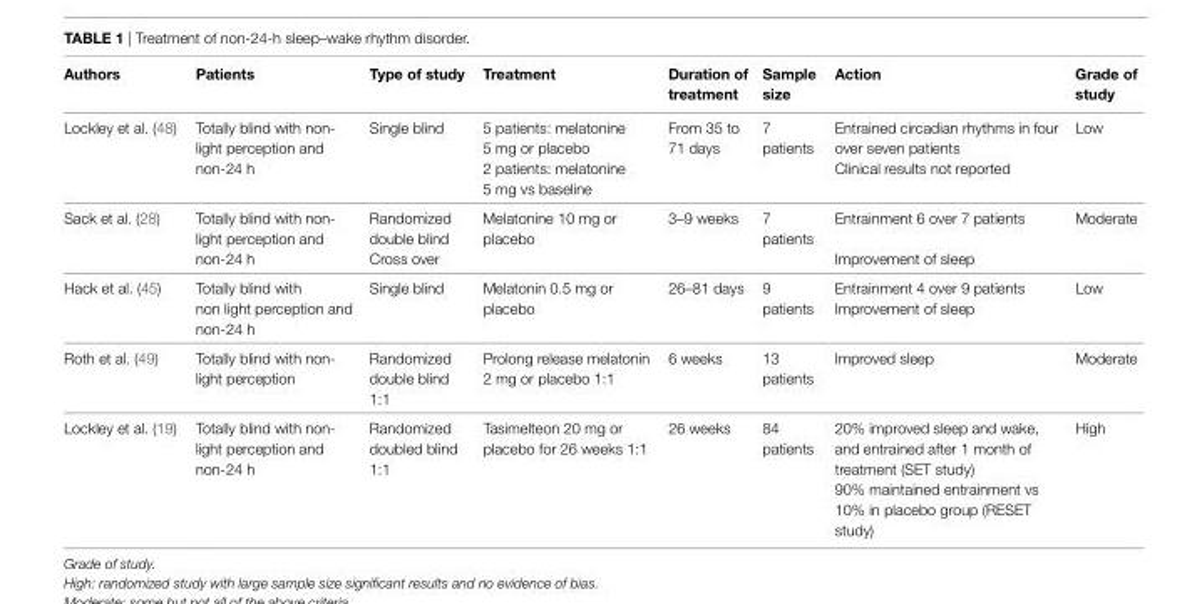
<table><thead><tr><td>Authors</td><td>Patients</td><td>Type of study</td><td>Treatment</td><td>Duration of treatment</td><td>Sample size</td><td>Action</td><td>Grade of study</td></tr></thead><tbody><tr><td rowspan="2">Lockley et al. (48)</td><td rowspan="2">Totally blind with non- light perception and non-24 h</td><td rowspan="2">Single blind</td><td>5 patients: melatonine 5 mg or placebo</td><td rowspan="2">From 35 to 71 days</td><td rowspan="2">7 patients</td><td>Entrained circadian rhythms in four over seven patients</td><td rowspan="2">Low</td></tr><tr><td>2 patients: melatonine 5 mg vs baseline</td><td>Clinical results not reported</td></tr><tr><td rowspan="2">Sack et al. (28)</td><td rowspan="2">Totally blind with non- light perception and non-24 h</td><td>Randomized double blind</td><td rowspan="2">Melatonine 10 mg or placebo</td><td rowspan="2">3–9 weeks</td><td rowspan="2">7 patients</td><td>Entrainment 6 over 7 patients</td><td rowspan="2">Moderate</td></tr><tr><td>Cross over</td><td>Improvement of sleep</td></tr><tr><td rowspan="2">Hack et al. (45)</td><td rowspan="2">Totally blind with non light perception and non-24 h</td><td rowspan="2">Single blind</td><td rowspan="2">Melatonin 0.5 mg or placebo</td><td rowspan="2">26–81 days</td><td rowspan="2">9 patients</td><td>Entrainment 4 over 9 patients</td><td rowspan="2">Low</td></tr><tr><td>Improvement of sleep</td></tr><tr><td>Roth et al. (49)</td><td>Totally blind with non- light perception</td><td>Randomized double blind 1:1</td><td>Prolong release melatonin 2 mg or placebo 1:1</td><td>6 weeks</td><td>13 patients</td><td>Improved sleep</td><td>Moderate</td></tr><tr><td rowspan="2">Lockley et al. (19)</td><td rowspan="2">Totally blind with non- light perception and non-24 h</td><td rowspan="2">Randomized doubled blind 1:1</td><td rowspan="2">Tasimelteon 20 mg or placebo for 26 weeks 1:1</td><td rowspan="2">26 weeks</td><td rowspan="2">84 patients</td><td>20% improved sleep and wake, and entrained after 1 month of treatment (SET study)</td><td rowspan="2">High</td></tr><tr><td>90% maintained entrainment vs 10% in placebo group (RESET study)</td></tr></tbody></table>